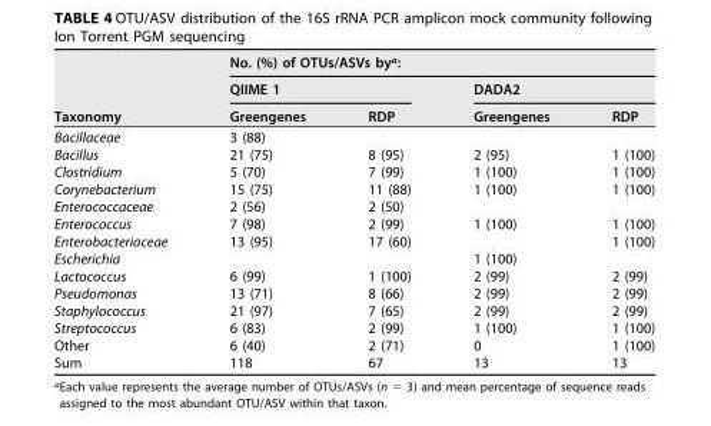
<table><thead><tr><td rowspan="3">Taxonomy</td><td colspan="4">No. (%) of OTUs/ASVs by<sup>a</sup>:</td></tr><tr><td colspan="2">QIIME 1</td><td colspan="2">DADA2</td></tr><tr><td>Greengenes</td><td>RDP</td><td>Greengenes</td><td>RDP</td></tr></thead><tbody><tr><td>Bacillaceae</td><td>3 (88)</td><td></td><td></td><td></td></tr><tr><td>Bacillus</td><td>21 (75)</td><td>8 (95)</td><td>2 (95)</td><td>1 (100)</td></tr><tr><td>Clostridium</td><td>5 (70)</td><td>7 (99)</td><td>1 (100)</td><td>1 (100)</td></tr><tr><td>Corynebacterium</td><td>15 (75)</td><td>11 (88)</td><td>1 (100)</td><td>1 (100)</td></tr><tr><td>Enterococcaceae</td><td>2 (56)</td><td>2 (50)</td><td></td><td></td></tr><tr><td>Enterococcus</td><td>7 (98)</td><td>2 (99)</td><td>1 (100)</td><td>1 (100)</td></tr><tr><td>Enterobacteriaceae</td><td>13 (95)</td><td>17 (60)</td><td></td><td>1 (100)</td></tr><tr><td>Escherichia</td><td></td><td></td><td>1 (100)</td><td></td></tr><tr><td>Lactococcus</td><td>6 (99)</td><td>1 (100)</td><td>2 (99)</td><td>2 (99)</td></tr><tr><td>Pseudomonas</td><td>13 (71)</td><td>8 (66)</td><td>2 (99)</td><td>2 (99)</td></tr><tr><td>Staphylococcus</td><td>21 (97)</td><td>7 (65)</td><td>2 (99)</td><td>2 (99)</td></tr><tr><td>Streptococcus</td><td>6 (83)</td><td>2 (99)</td><td>1 (100)</td><td>1 (100)</td></tr><tr><td>Other</td><td>6 (40)</td><td>2 (71)</td><td>0</td><td>1 (100)</td></tr><tr><td>Sum</td><td>118</td><td>67</td><td>13</td><td>13</td></tr></tbody></table>